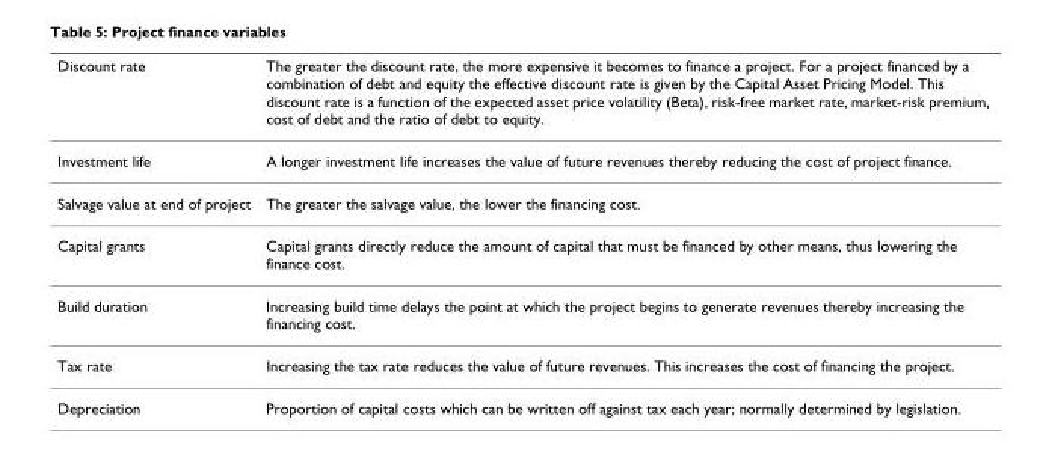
<table><thead><tr><td>Discount rate</td><td>The greater the discount rate, the more expensive it becomes to finance a project. For a project financed by a combination of debt and equity the effective discount rate is given by the Capital Asset Pricing Model. This discount rate is a function of the expected asset price volatility (Beta), risk-free market rate, market-risk premium, cost of debt and the ratio of debt to equity.</td></tr></thead><tbody><tr><td>Investment life</td><td>A longer investment life increases the value of future revenues thereby reducing the cost of project finance.</td></tr><tr><td>Salvage value at end of project</td><td>The greater the salvage value, the lower the financing cost.</td></tr><tr><td>Capital grants</td><td>Capital grants directly reduce the amount of capital that must be financed by other means, thus lowering the finance cost.</td></tr><tr><td>Build duration</td><td>Increasing build time delays the point at which the project begins to generate revenues thereby increasing the financing cost.</td></tr><tr><td>Tax rate</td><td>Increasing the tax rate reduces the value of future revenues. This increases the cost of financing the project.</td></tr><tr><td>Depreciation</td><td>Proportion of capital costs which can be written off against tax each year; normally determined by legislation.</td></tr></tbody></table>